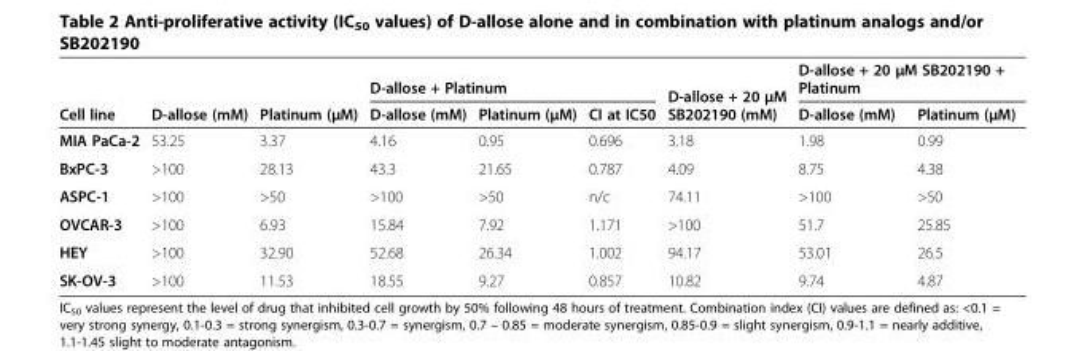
<table><thead><tr><td rowspan="2">Cell line</td><td rowspan="2">D-allose (mM)</td><td rowspan="2">Platinum (μM)</td><td colspan="3">D-allose + Platinum</td><td rowspan="2">D-allose + 20 μM SB202190 (mM)</td><td colspan="2">D-allose + 20 μM SB202190 + Platinum</td></tr><tr><td>D-allose (mM)</td><td>Platinum (μM)</td><td>CI at IC50</td><td>D-allose (mM)</td><td>Platinum (μM)</td></tr></thead><tbody><tr><td>MIA PaCa-2</td><td>53.25</td><td>3.37</td><td>4.16</td><td>0.95</td><td>0.696</td><td>3.18</td><td>1.98</td><td>0.99</td></tr><tr><td>BxPC-3</td><td>&gt;100</td><td>28.13</td><td>43.3</td><td>21.65</td><td>0.787</td><td>4.09</td><td>8.75</td><td>4.38</td></tr><tr><td>ASPC-1</td><td>&gt;100</td><td>&gt;50</td><td>&gt;100</td><td>&gt;50</td><td>n/c</td><td>74.11</td><td>&gt;100</td><td>&gt;50</td></tr><tr><td>OVCAR-3</td><td>&gt;100</td><td>6.93</td><td>15.84</td><td>7.92</td><td>1.171</td><td>&gt;100</td><td>51.7</td><td>25.85</td></tr><tr><td>HEY</td><td>&gt;100</td><td>32.90</td><td>52.68</td><td>26.34</td><td>1.002</td><td>94.17</td><td>53.01</td><td>26.5</td></tr><tr><td>SK-OV-3</td><td>&gt;100</td><td>11.53</td><td>18.55</td><td>9.27</td><td>0.857</td><td>10.82</td><td>9.74</td><td>4.87</td></tr></tbody></table>